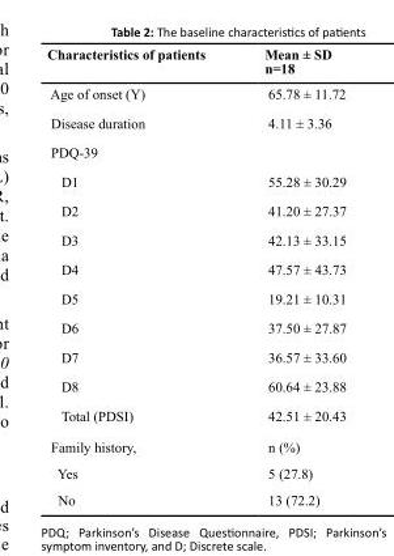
<table><thead><tr><td>Characteristics of patients</td><td>Mean ± SD n=18</td></tr></thead><tbody><tr><td>Age of onset (Y)</td><td>65.78 ± 11.72</td></tr><tr><td>Disease duration</td><td>4.11 ± 3.36</td></tr><tr><td colspan="2">PDQ-39</td></tr><tr><td>D1</td><td>55.28 ± 30.29</td></tr><tr><td>D2</td><td>41.20 ± 27.37</td></tr><tr><td>D3</td><td>42.13 ± 33.15</td></tr><tr><td>D4</td><td>47.57 ± 43.73</td></tr><tr><td>D5</td><td>19.21 ± 10.31</td></tr><tr><td>D6</td><td>37.50 ± 27.87</td></tr><tr><td>D7</td><td>36.57 ± 33.60</td></tr><tr><td>D8</td><td>60.64 ± 23.88</td></tr><tr><td>Total (PDSI)</td><td>42.51 ± 20.43</td></tr><tr><td>Family history,</td><td>n (%)</td></tr><tr><td>Yes</td><td>5 (27.8)</td></tr><tr><td>No</td><td>13 (72.2)</td></tr></tbody></table>